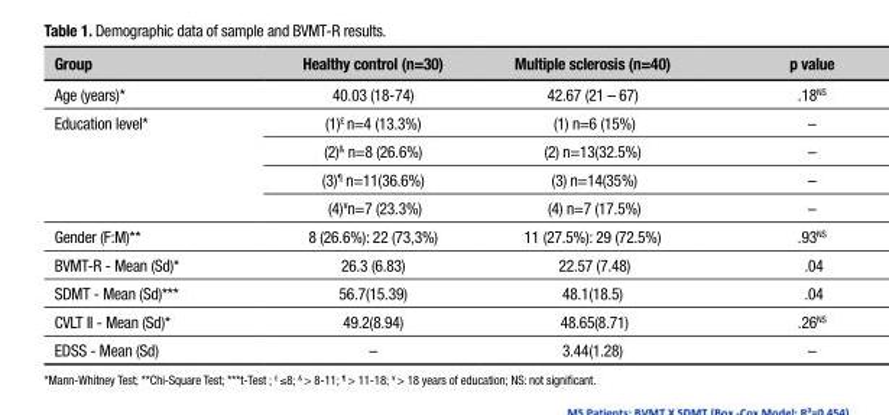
<table><thead><tr><td>Group</td><td>Healthy control (n=30)</td><td>Multiple sclerosis (n=40)</td><td>p value</td></tr></thead><tbody><tr><td>Age (years)*</td><td>40.03 (18-74)</td><td>42.67 (21 – 67)</td><td>.18<sup>NS</sup></td></tr><tr><td rowspan="4">Education level*</td><td>(1)<sup>£</sup> n=4 (13.3%)</td><td>(1) n=6 (15%)</td><td>–</td></tr><tr><td>(2)<sup>&amp;</sup> n=8 (26.6%)</td><td>(2) n=13(32.5%)</td><td>–</td></tr><tr><td>(3)<sup>¶</sup> n=11(36.6%)</td><td>(3) n=14(35%)</td><td>–</td></tr><tr><td>(4)<sup>¥</sup>n=7 (23.3%)</td><td>(4) n=7 (17.5%)</td><td>–</td></tr><tr><td>Gender (F:M)**</td><td>8 (26.6%): 22 (73,3%)</td><td>11 (27.5%): 29 (72.5%)</td><td>.93<sup>NS</sup></td></tr><tr><td>BVMT-R - Mean (Sd)*</td><td>26.3 (6.83)</td><td>22.57 (7.48)</td><td>.04</td></tr><tr><td>SDMT - Mean (Sd)***</td><td>56.7(15.39)</td><td>48.1(18.5)</td><td>.04</td></tr><tr><td>CVLT II - Mean (Sd)*</td><td>49.2(8.94)</td><td>48.65(8.71)</td><td>.26<sup>NS</sup></td></tr><tr><td>EDSS - Mean (Sd)</td><td>–</td><td>3.44(1.28)</td><td>–</td></tr></tbody></table>